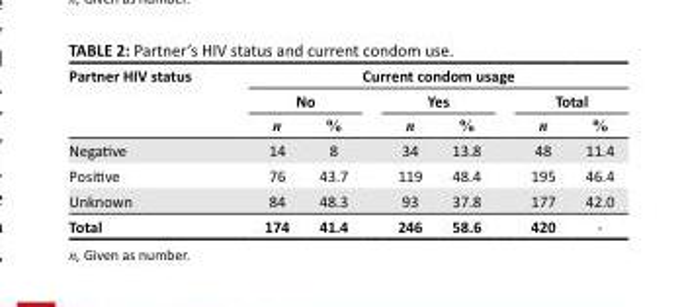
<table><thead><tr><td rowspan="3">Partner HIV status</td><td colspan="6">Current condom usage</td></tr><tr><td colspan="2">No</td><td colspan="2">Yes</td><td colspan="2">Total</td></tr><tr><td>n</td><td>%</td><td>n</td><td>%</td><td>n</td><td>%</td></tr></thead><tbody><tr><td>Negative</td><td>14</td><td>8</td><td>34</td><td>13.8</td><td>48</td><td>11.4</td></tr><tr><td>Positive</td><td>76</td><td>43.7</td><td>119</td><td>48.4</td><td>195</td><td>46.4</td></tr><tr><td>Unknown</td><td>84</td><td>48.3</td><td>93</td><td>37.8</td><td>177</td><td>42.0</td></tr><tr><td>Total</td><td>174</td><td>41.4</td><td>246</td><td>58.6</td><td>420</td><td>-</td></tr></tbody></table>